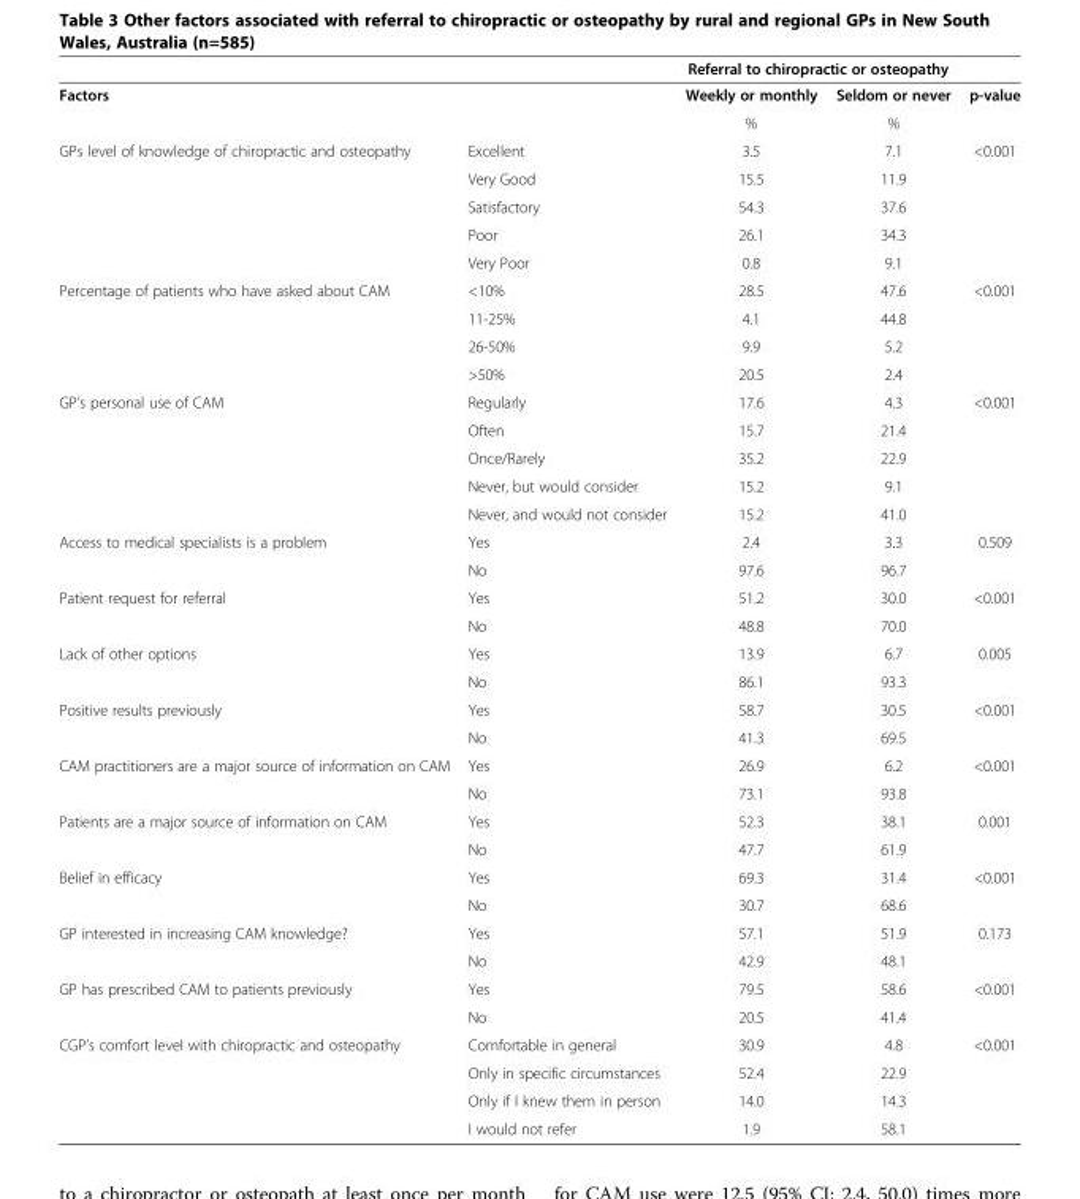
<table><thead><tr><td></td><td></td><td colspan="2">Referral to chiropractic or osteopathy</td><td rowspan="2">p-value</td></tr><tr><td colspan="2">Factors</td><td>Weekly or monthly</td><td>Seldom or never</td></tr></thead><tbody><tr><td colspan="2"></td><td>%</td><td>%</td><td></td></tr><tr><td rowspan="5">GPs level of knowledge of chiropractic and osteopathy</td><td>Excellent</td><td>3.5</td><td>7.1</td><td>&lt;0.001</td></tr><tr><td>Very Good</td><td>15.5</td><td>11.9</td><td></td></tr><tr><td>Satisfactory</td><td>54.3</td><td>37.6</td><td></td></tr><tr><td>Poor</td><td>26.1</td><td>34.3</td><td></td></tr><tr><td>Very Poor</td><td>0.8</td><td>9.1</td><td></td></tr><tr><td rowspan="4">Percentage of patients who have asked about CAM</td><td>&lt;10%</td><td>28.5</td><td>47.6</td><td>&lt;0.001</td></tr><tr><td>11-25%</td><td>4.1</td><td>44.8</td><td></td></tr><tr><td>26-50%</td><td>9.9</td><td>5.2</td><td></td></tr><tr><td>&gt;50%</td><td>20.5</td><td>2.4</td><td></td></tr><tr><td rowspan="5">GP’s personal use of CAM</td><td>Regularly</td><td>17.6</td><td>4.3</td><td>&lt;0.001</td></tr><tr><td>Often</td><td>15.7</td><td>21.4</td><td></td></tr><tr><td>Once/Rarely</td><td>35.2</td><td>22.9</td><td></td></tr><tr><td>Never, but would consider</td><td>15.2</td><td>9.1</td><td></td></tr><tr><td>Never, and would not consider</td><td>15.2</td><td>41.0</td><td></td></tr><tr><td rowspan="2">Access to medical specialists is a problem</td><td>Yes</td><td>2.4</td><td>3.3</td><td>0.509</td></tr><tr><td>No</td><td>97.6</td><td>96.7</td><td></td></tr><tr><td rowspan="2">Patient request for referral</td><td>Yes</td><td>51.2</td><td>30.0</td><td>&lt;0.001</td></tr><tr><td>No</td><td>48.8</td><td>70.0</td><td></td></tr><tr><td rowspan="2">Lack of other options</td><td>Yes</td><td>13.9</td><td>6.7</td><td>0.005</td></tr><tr><td>No</td><td>86.1</td><td>93.3</td><td></td></tr><tr><td rowspan="2">Positive results previously</td><td>Yes</td><td>58.7</td><td>30.5</td><td>&lt;0.001</td></tr><tr><td>No</td><td>41.3</td><td>69.5</td><td></td></tr><tr><td rowspan="2">CAM practitioners are a major source of information on CAM</td><td>Yes</td><td>26.9</td><td>6.2</td><td>&lt;0.001</td></tr><tr><td>No</td><td>73.1</td><td>93.8</td><td></td></tr><tr><td rowspan="2">Patients are a major source of information on CAM</td><td>Yes</td><td>52.3</td><td>38.1</td><td>0.001</td></tr><tr><td>No</td><td>47.7</td><td>61.9</td><td></td></tr><tr><td rowspan="2">Belief in efficacy</td><td>Yes</td><td>69.3</td><td>31.4</td><td>&lt;0.001</td></tr><tr><td>No</td><td>30.7</td><td>68.6</td><td></td></tr><tr><td rowspan="2">GP interested in increasing CAM knowledge?</td><td>Yes</td><td>57.1</td><td>51.9</td><td>0.173</td></tr><tr><td>No</td><td>42.9</td><td>48.1</td><td></td></tr><tr><td rowspan="2">GP has prescribed CAM to patients previously</td><td>Yes</td><td>79.5</td><td>58.6</td><td>&lt;0.001</td></tr><tr><td>No</td><td>20.5</td><td>41.4</td><td></td></tr><tr><td rowspan="4">CGP’s comfort level with chiropractic and osteopathy</td><td>Comfortable in general</td><td>30.9</td><td>4.8</td><td>&lt;0.001</td></tr><tr><td>Only in specific circumstances</td><td>52.4</td><td>22.9</td><td></td></tr><tr><td>Only if I knew them in person</td><td>14.0</td><td>14.3</td><td></td></tr><tr><td>I would not refer</td><td>1.9</td><td>58.1</td><td></td></tr></tbody></table>